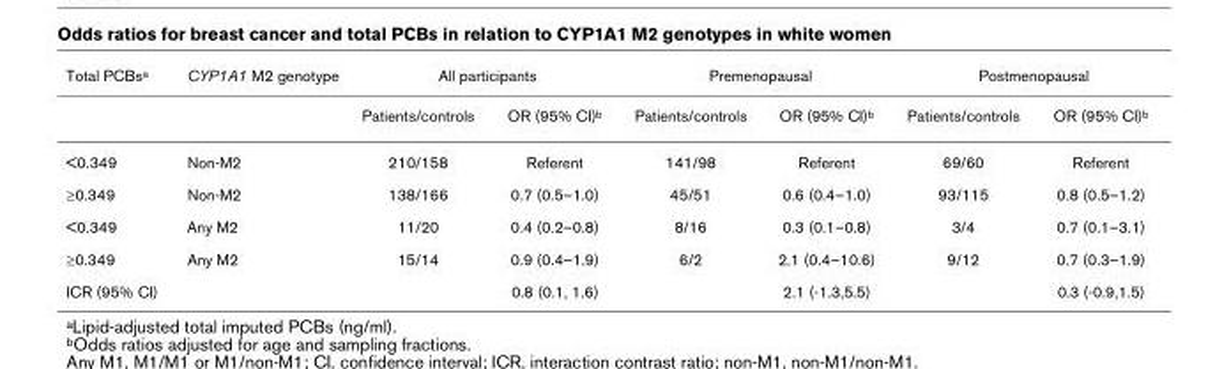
<table><thead><tr><td rowspan="2">Total PCBsa</td><td rowspan="2">CYP1A1 M2 genotype</td><td colspan="2">All participants</td><td colspan="2">Premenopausal</td><td colspan="2">Postmenopausal</td></tr><tr><td>Patients/controls</td><td>OR (95% CI)b</td><td>Patients/controls</td><td>OR (95% CI)b</td><td>Patients/controls</td><td>OR (95% CI)b</td></tr></thead><tbody><tr><td>&lt;0.349</td><td>Non-M2</td><td>210/158</td><td>Referent</td><td>141/98</td><td>Referent</td><td>69/60</td><td>Referent</td></tr><tr><td>≥0.349</td><td>Non-M2</td><td>138/166</td><td>0.7 (0.5–1.0)</td><td>45/51</td><td>0.6 (0.4–1.0)</td><td>93/115</td><td>0.8 (0.5–1.2)</td></tr><tr><td>&lt;0.349</td><td>Any M2</td><td>11/20</td><td>0.4 (0.2–0.8)</td><td>8/16</td><td>0.3 (0.1–0.8)</td><td>3/4</td><td>0.7 (0.1–3.1)</td></tr><tr><td>≥0.349</td><td>Any M2</td><td>15/14</td><td>0.9 (0.4–1.9)</td><td>6/2</td><td>2.1 (0.4–10.6)</td><td>9/12</td><td>0.7 (0.3–1.9)</td></tr><tr><td>ICR (95% CI)</td><td></td><td></td><td>0.8 (0.1, 1.6)</td><td></td><td>2.1 (-1.3,5.5)</td><td></td><td>0.3 (-0.9,1.5)</td></tr></tbody></table>